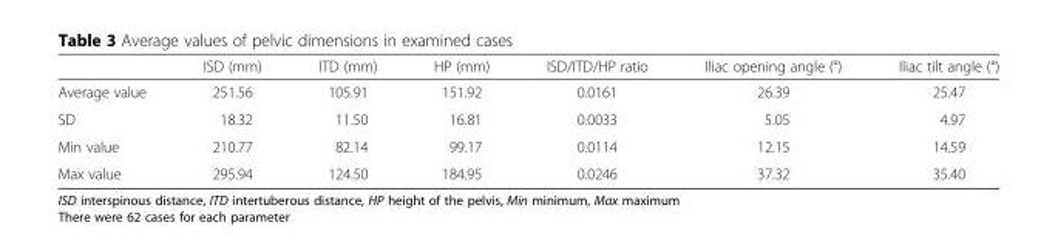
<table><thead><tr><td></td><td>ISD (mm)</td><td>ITD (mm)</td><td>HP (mm)</td><td>ISD/ITD/HP ratio</td><td>Iliac opening angle (°)</td><td>Iliac tilt angle (°)</td></tr></thead><tbody><tr><td>Average value</td><td>251.56</td><td>105.91</td><td>151.92</td><td>0.0161</td><td>26.39</td><td>25.47</td></tr><tr><td>SD</td><td>18.32</td><td>11.50</td><td>16.81</td><td>0.0033</td><td>5.05</td><td>4.97</td></tr><tr><td>Min value</td><td>210.77</td><td>82.14</td><td>99.17</td><td>0.0114</td><td>12.15</td><td>14.59</td></tr><tr><td>Max value</td><td>295.94</td><td>124.50</td><td>184.95</td><td>0.0246</td><td>37.32</td><td>35.40</td></tr></tbody></table>